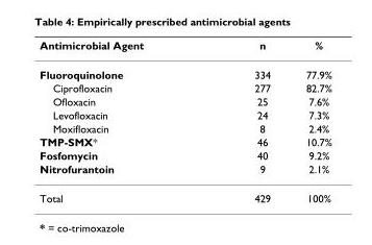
<table><thead><tr><td>Antimicrobial Agent</td><td>n</td><td>%</td></tr></thead><tbody><tr><td>Fluoroquinolone</td><td>334</td><td>77.9%</td></tr><tr><td>Ciprofloxacin</td><td>277</td><td>82.7%</td></tr><tr><td>Ofloxacin</td><td>25</td><td>7.6%</td></tr><tr><td>Levofloxacin</td><td>24</td><td>7.3%</td></tr><tr><td>Moxifloxacin</td><td>8</td><td>2.4%</td></tr><tr><td>TMP-SMX*</td><td>46</td><td>10.7%</td></tr><tr><td>Fosfomycin</td><td>40</td><td>9.2%</td></tr><tr><td>Nitrofurantoin</td><td>9</td><td>2.1%</td></tr><tr><td>Total</td><td>429</td><td>100%</td></tr></tbody></table>